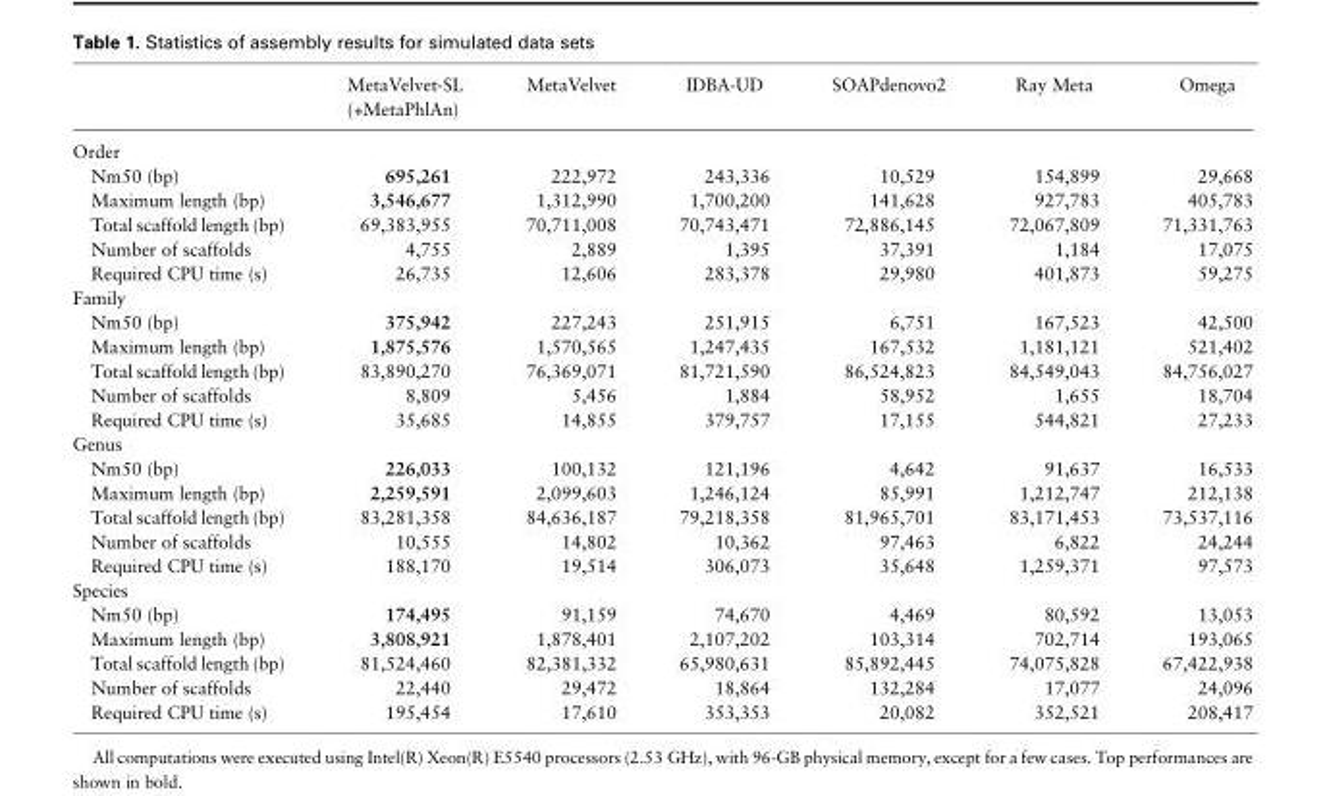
<table><thead><tr><td></td><td>MetaVelvet-SL (+MetaPhlAn)</td><td>MetaVelvet</td><td>IDBA-UD</td><td>SOAPdenovo2</td><td>Ray Meta</td><td>Omega</td></tr></thead><tbody><tr><td colspan="7">Order</td></tr><tr><td>Nm50 (bp)</td><td>695,261</td><td>222,972</td><td>243,336</td><td>10,529</td><td>154,899</td><td>29,668</td></tr><tr><td>Maximum length (bp)</td><td>3,546,677</td><td>1,312,990</td><td>1,700,200</td><td>141,628</td><td>927,783</td><td>405,783</td></tr><tr><td>Total scaffold length (bp)</td><td>69,383,955</td><td>70,711,008</td><td>70,743,471</td><td>72,886,145</td><td>72,067,809</td><td>71,331,763</td></tr><tr><td>Number of scaffolds</td><td>4,755</td><td>2,889</td><td>1,395</td><td>37,391</td><td>1,184</td><td>17,075</td></tr><tr><td>Required CPU time (s)</td><td>26,735</td><td>12,606</td><td>283,378</td><td>29,980</td><td>401,873</td><td>59,275</td></tr><tr><td colspan="7">Family</td></tr><tr><td>Nm50 (bp)</td><td>375,942</td><td>227,243</td><td>251,915</td><td>6,751</td><td>167,523</td><td>42,500</td></tr><tr><td>Maximum length (bp)</td><td>1,875,576</td><td>1,570,565</td><td>1,247,435</td><td>167,532</td><td>1,181,121</td><td>521,402</td></tr><tr><td>Total scaffold length (bp)</td><td>83,890,270</td><td>76,369,071</td><td>81,721,590</td><td>86,524,823</td><td>84,549,043</td><td>84,756,027</td></tr><tr><td>Number of scaffolds</td><td>8,809</td><td>5,456</td><td>1,884</td><td>58,952</td><td>1,655</td><td>18,704</td></tr><tr><td>Required CPU time (s)</td><td>35,685</td><td>14,855</td><td>379,757</td><td>17,155</td><td>544,821</td><td>27,233</td></tr><tr><td colspan="7">Genus</td></tr><tr><td>Nm50 (bp)</td><td>226,033</td><td>100,132</td><td>121,196</td><td>4,642</td><td>91,637</td><td>16,533</td></tr><tr><td>Maximum length (bp)</td><td>2,259,591</td><td>2,099,603</td><td>1,246,124</td><td>85,991</td><td>1,212,747</td><td>212,138</td></tr><tr><td>Total scaffold length (bp)</td><td>83,281,358</td><td>84,636,187</td><td>79,218,358</td><td>81,965,701</td><td>83,171,453</td><td>73,537,116</td></tr><tr><td>Number of scaffolds</td><td>10,555</td><td>14,802</td><td>10,362</td><td>97,463</td><td>6,822</td><td>24,244</td></tr><tr><td>Required CPU time (s)</td><td>188,170</td><td>19,514</td><td>306,073</td><td>35,648</td><td>1,259,371</td><td>97,573</td></tr><tr><td colspan="7">Species</td></tr><tr><td>Nm50 (bp)</td><td>174,495</td><td>91,159</td><td>74,670</td><td>4,469</td><td>80,592</td><td>13,053</td></tr><tr><td>Maximum length (bp)</td><td>3,808,921</td><td>1,878,401</td><td>2,107,202</td><td>103,314</td><td>702,714</td><td>193,065</td></tr><tr><td>Total scaffold length (bp)</td><td>81,524,460</td><td>82,381,332</td><td>65,980,631</td><td>85,892,445</td><td>74,075,828</td><td>67,422,938</td></tr><tr><td>Number of scaffolds</td><td>22,440</td><td>29,472</td><td>18,864</td><td>132,284</td><td>17,077</td><td>24,096</td></tr><tr><td>Required CPU time (s)</td><td>195,454</td><td>17,610</td><td>353,353</td><td>20,082</td><td>352,521</td><td>208,417</td></tr></tbody></table>